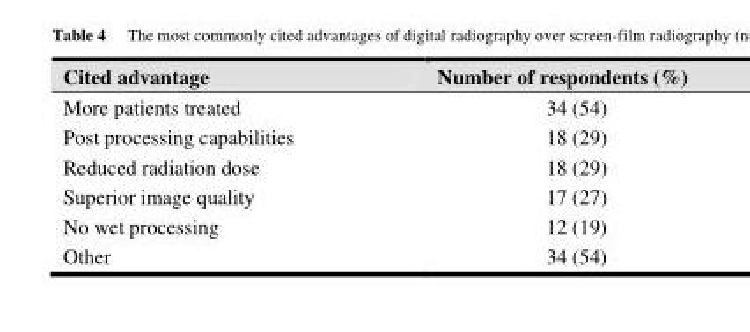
<table><thead><tr><td>Cited advantage</td><td>Number of respondents (%)</td></tr></thead><tbody><tr><td>More patients treated</td><td>34 (54)</td></tr><tr><td>Post processing capabilities</td><td>18 (29)</td></tr><tr><td>Reduced radiation dose</td><td>18 (29)</td></tr><tr><td>Superior image quality</td><td>17 (27)</td></tr><tr><td>No wet processing</td><td>12 (19)</td></tr><tr><td>Other</td><td>34 (54)</td></tr></tbody></table>